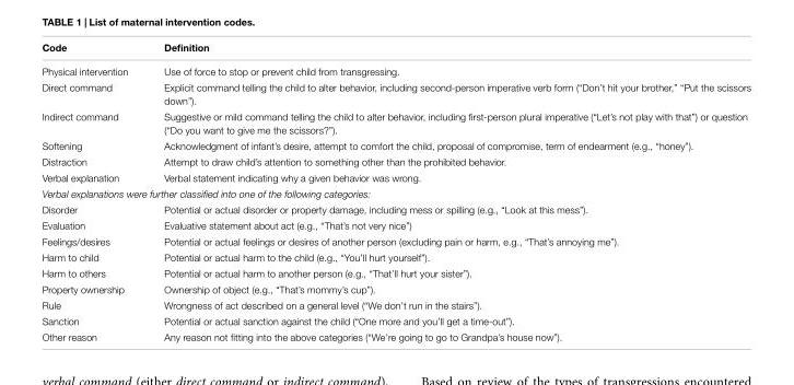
<table><thead><tr><td>Code</td><td>Definition</td></tr></thead><tbody><tr><td>Physical intervention</td><td>Use of force to stop or prevent child from transgressing.</td></tr><tr><td>Direct command</td><td>Explicit command telling the child to alter behavior, including second-person imperative verb form (“Don’t hit your brother,” “Put the scissors down”).</td></tr><tr><td>Indirect command</td><td>Suggestive or mild command telling the child to alter behavior, including first-person plural imperative (“Let’s not play with that”) or question (“Do you want to give me the scissors?”).</td></tr><tr><td>Softening</td><td>Acknowledgment of infant’s desire, attempt to comfort the child, proposal of compromise, term of endearment (e.g., “honey”).</td></tr><tr><td>Distraction</td><td>Attempt to draw child’s attention to something other than the prohibited behavior.</td></tr><tr><td>Verbal explanation</td><td>Verbal statement indicating why a given behavior was wrong.</td></tr><tr><td colspan="2">Verbal explanations were further classified into one of the following categories:</td></tr><tr><td>Disorder</td><td>Potential or actual disorder or property damage, including mess or spilling (e.g., “Look at this mess”).</td></tr><tr><td>Evaluation</td><td>Evaluative statement about act (e.g., “That’s not very nice”)</td></tr><tr><td>Feelings/desires</td><td>Potential or actual feelings or desires of another person (excluding pain or harm, e.g., “That’s annoying me”).</td></tr><tr><td>Harm to child</td><td>Potential or actual harm to the child (e.g., “You’ll hurt yourself”).</td></tr><tr><td>Harm to others</td><td>Potential or actual harm to another person (e.g., “That’ll hurt your sister”).</td></tr><tr><td>Property ownership</td><td>Ownership of object (e.g., “That’s mommy’s cup”).</td></tr><tr><td>Rule</td><td>Wrongness of act described on a general level (“We don’t run in the stairs”).</td></tr><tr><td>Sanction</td><td>Potential or actual sanction against the child (“One more and you’ll get a time-out”).</td></tr><tr><td>Other reason</td><td>Any reason not fitting into the above categories (“We’re going to go to Grandpa’s house now”).</td></tr></tbody></table>